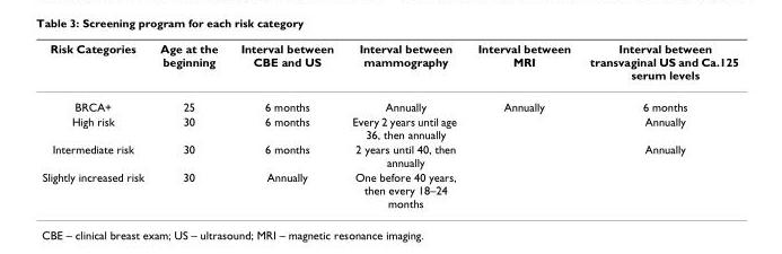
<table><thead><tr><td>Risk Categories</td><td>Age at the beginning</td><td>Interval between CBE and US</td><td>Interval between mammography</td><td>Interval between MRI</td><td>Interval between transvaginal US and Ca.125 serum levels</td></tr></thead><tbody><tr><td>BRCA+</td><td>25</td><td>6 months</td><td>Annually</td><td>Annually</td><td>6 months</td></tr><tr><td>High risk</td><td>30</td><td>6 months</td><td>Every 2 years until age 36, then annually</td><td></td><td>Annually</td></tr><tr><td>Intermediate risk</td><td>30</td><td>6 months</td><td>2 years until 40, then annually</td><td></td><td>Annually</td></tr><tr><td>Slightly increased risk</td><td>30</td><td>Annually</td><td>One before 40 years, then every 18–24 months</td><td></td><td></td></tr></tbody></table>